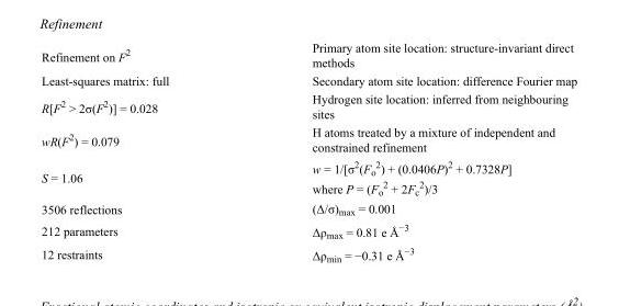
<table><tbody><tr><td>Refinement on F<sup>2</sup></td><td>Primary atom site location: structure-invariant direct methods</td></tr><tr><td>Least-squares matrix: full</td><td>Secondary atom site location: difference Fourier map</td></tr><tr><td>R[F<sup>2</sup> &gt; 2σ(F<sup>2</sup>)] = 0.028</td><td>Hydrogen site location: inferred from neighbouring sites</td></tr><tr><td>wR(F<sup>2</sup>) = 0.079</td><td>H atoms treated by a mixture of independent and constrained refinement</td></tr><tr><td>S = 1.06</td><td>w = 1/[σ<sup>2</sup>(F<sub>o</sub> <sup>2</sup>) + (0.0406P)<sup>2</sup> + 0.7328P] where P = (F<sub>o</sub> <sup>2</sup> + 2F<sub>c</sub> <sup>2</sup>)/3</td></tr><tr><td>3506 reflections</td><td>(Δ/σ)<sub>max</sub> = 0.001</td></tr><tr><td>212 parameters</td><td>Δρ<sub>max</sub> = 0.81 e Å<sup>−3</sup></td></tr><tr><td>12 restraints</td><td>Δρ<sub>min</sub> = −0.31 e Å<sup>−3</sup></td></tr></tbody></table>